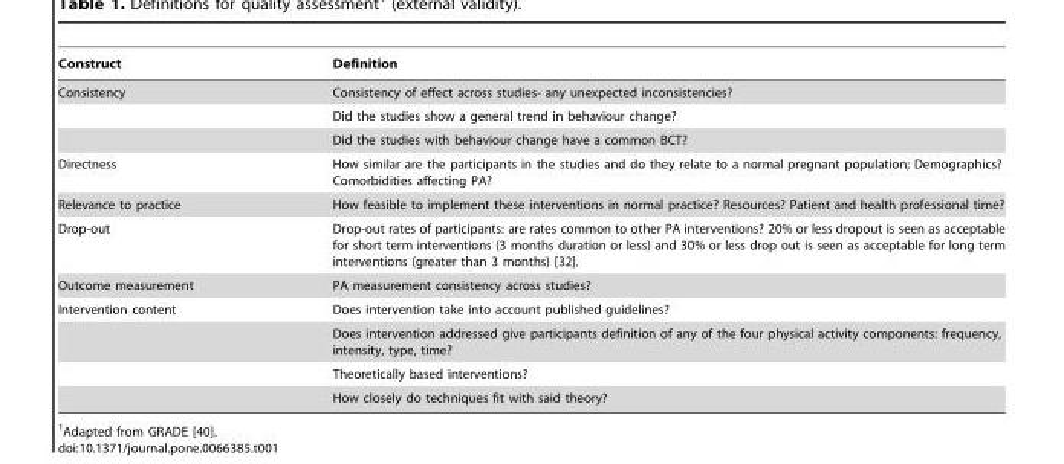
<table><thead><tr><td>Construct</td><td>Definition</td></tr></thead><tbody><tr><td rowspan="3">Consistency</td><td>Consistency of effect across studies- any unexpected inconsistencies?</td></tr><tr><td>Did the studies show a general trend in behaviour change?</td></tr><tr><td>Did the studies with behaviour change have a common BCT?</td></tr><tr><td>Directness</td><td>How similar are the participants in the studies and do they relate to a normal pregnant population; Demographics? Comorbidities affecting PA?</td></tr><tr><td>Relevance to practice</td><td>How feasible to implement these interventions in normal practice? Resources? Patient and health professional time?</td></tr><tr><td>Drop-out</td><td>Drop-out rates of participants: are rates common to other PA interventions? 20% or less dropout is seen as acceptable for short term interventions (3 months duration or less) and 30% or less drop out is seen as acceptable for long term interventions (greater than 3 months) [32].</td></tr><tr><td>Outcome measurement</td><td>PA measurement consistency across studies?</td></tr><tr><td rowspan="4">Intervention content</td><td>Does intervention take into account published guidelines?</td></tr><tr><td>Does intervention addressed give participants definition of any of the four physical activity components: frequency, intensity, type, time?</td></tr><tr><td>Theoretically based interventions?</td></tr><tr><td>How closely do techniques fit with said theory?</td></tr></tbody></table>